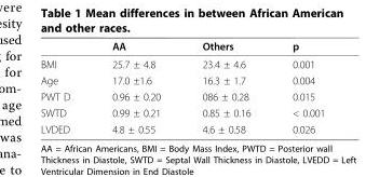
<table><thead><tr><td></td><td>AA</td><td>Others</td><td>p</td></tr></thead><tbody><tr><td>BMI</td><td>25.7 ± 4.8</td><td>23.4 ± 4.6</td><td>0.001</td></tr><tr><td>Age</td><td>17.0 ±1.6</td><td>16.3 ± 1.7</td><td>0.004</td></tr><tr><td>PWT D</td><td>0.96 ± 0.20</td><td>086 ± 0.28</td><td>0.015</td></tr><tr><td>SWTD</td><td>0.99 ± 0.21</td><td>0.85 ± 0.16</td><td>&lt; 0.001</td></tr><tr><td>LVDED</td><td>4.8 ± 0.55</td><td>4.6 ± 0.58</td><td>0.026</td></tr></tbody></table>